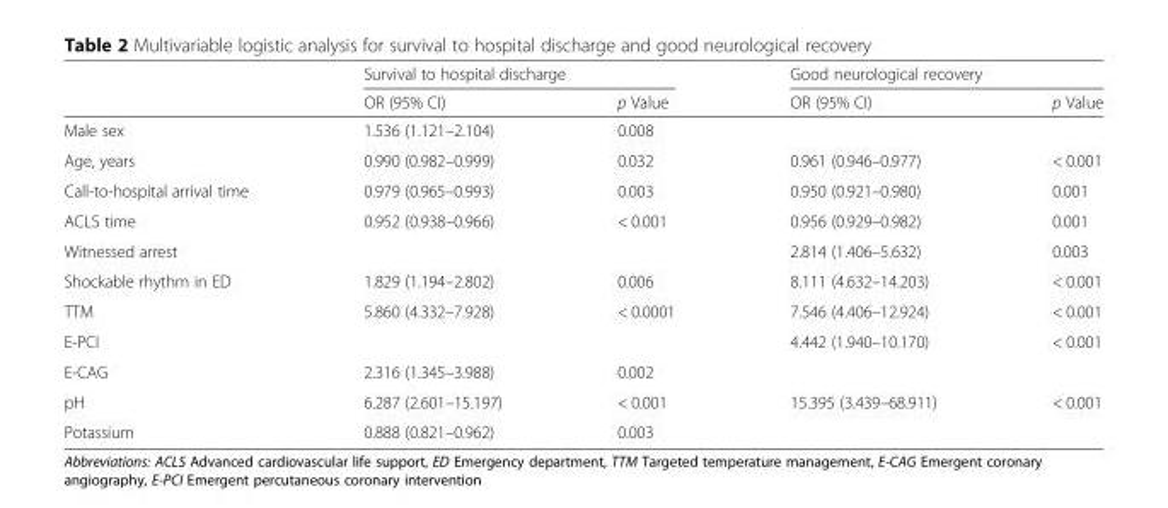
<table><thead><tr><td rowspan="2"></td><td colspan="2">Survival to hospital discharge</td><td colspan="2">Good neurological recovery</td></tr><tr><td>OR (95% CI)</td><td>p Value</td><td>OR (95% CI)</td><td>p Value</td></tr></thead><tbody><tr><td>Male sex</td><td>1.536 (1.121–2.104)</td><td>0.008</td><td></td><td></td></tr><tr><td>Age, years</td><td>0.990 (0.982–0.999)</td><td>0.032</td><td>0.961 (0.946–0.977)</td><td>&lt; 0.001</td></tr><tr><td>Call-to-hospital arrival time</td><td>0.979 (0.965–0.993)</td><td>0.003</td><td>0.950 (0.921–0.980)</td><td>0.001</td></tr><tr><td>ACLS time</td><td>0.952 (0.938–0.966)</td><td>&lt; 0.001</td><td>0.956 (0.929–0.982)</td><td>0.001</td></tr><tr><td>Witnessed arrest</td><td></td><td></td><td>2.814 (1.406–5.632)</td><td>0.003</td></tr><tr><td>Shockable rhythm in ED</td><td>1.829 (1.194–2.802)</td><td>0.006</td><td>8.111 (4.632–14.203)</td><td>&lt; 0.001</td></tr><tr><td>TTM</td><td>5.860 (4.332–7.928)</td><td>&lt; 0.0001</td><td>7.546 (4.406–12.924)</td><td>&lt; 0.001</td></tr><tr><td>E-PCI</td><td></td><td></td><td>4.442 (1.940–10.170)</td><td>&lt; 0.001</td></tr><tr><td>E-CAG</td><td>2.316 (1.345–3.988)</td><td>0.002</td><td></td><td></td></tr><tr><td>pH</td><td>6.287 (2.601–15.197)</td><td>&lt; 0.001</td><td>15.395 (3.439–68.911)</td><td>&lt; 0.001</td></tr><tr><td>Potassium</td><td>0.888 (0.821–0.962)</td><td>0.003</td><td></td><td></td></tr></tbody></table>